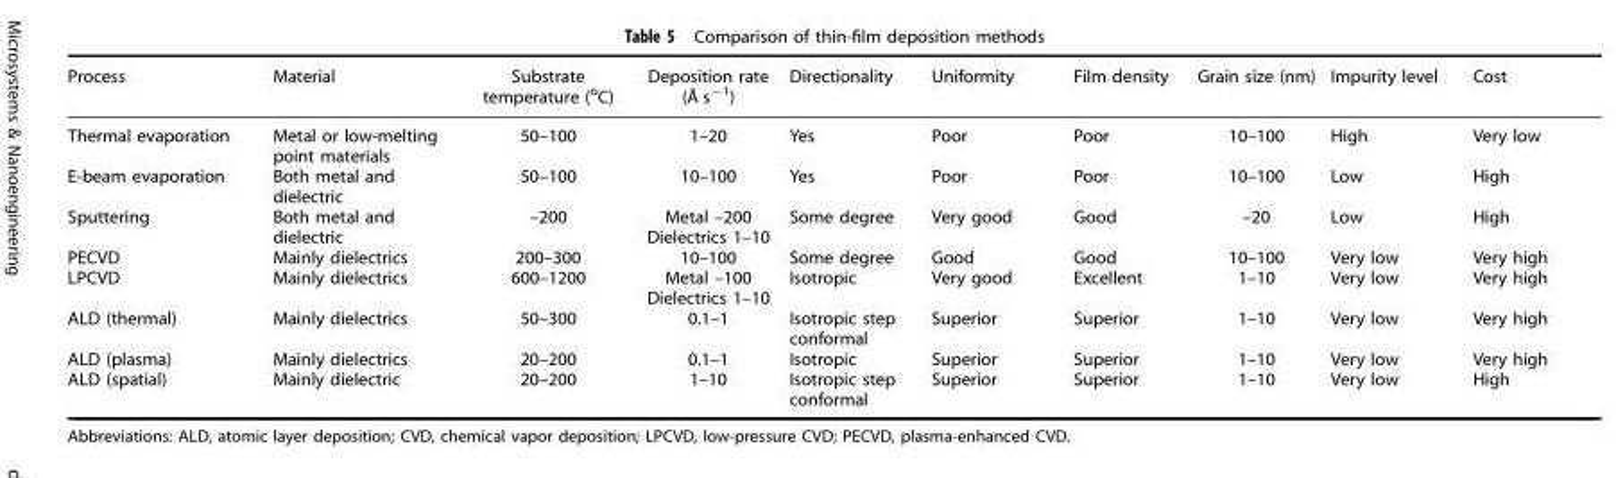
<table><thead><tr><td>Process</td><td>Material</td><td>Substrate temperature (<sup>o</sup>C)</td><td>Deposition rate (Å s <sup>− 1</sup>)</td><td>Directionality</td><td>Uniformity</td><td>Film density</td><td>Grain size (nm)</td><td>Impurity level</td><td>Cost</td></tr></thead><tbody><tr><td>Thermal evaporation</td><td>Metal or low-melting point materials</td><td>50–100</td><td>1–20</td><td>Yes</td><td>Poor</td><td>Poor</td><td>10–100</td><td>High</td><td>Very low</td></tr><tr><td>E-beam evaporation</td><td>Both metal and dielectric</td><td>50–100</td><td>10–100</td><td>Yes</td><td>Poor</td><td>Poor</td><td>10–100</td><td>Low</td><td>High</td></tr><tr><td>Sputtering</td><td>Both metal and dielectric</td><td>–200</td><td>Metal –200 Dielectrics 1–10</td><td>Some degree</td><td>Very good</td><td>Good</td><td>–20</td><td>Low</td><td>High</td></tr><tr><td>PECVD</td><td>Mainly dielectrics</td><td>200–300</td><td>10–100</td><td>Some degree</td><td>Good</td><td>Good</td><td>10–100</td><td>Very low</td><td>Very high</td></tr><tr><td>LPCVD</td><td>Mainly dielectrics</td><td>600–1200</td><td>Metal –100 Dielectrics 1–10</td><td>Isotropic</td><td>Very good</td><td>Excellent</td><td>1–10</td><td>Very low</td><td>Very high</td></tr><tr><td>ALD (thermal)</td><td>Mainly dielectrics</td><td>50–300</td><td>0.1–1</td><td>Isotropic step conformal</td><td>Superior</td><td>Superior</td><td>1–10</td><td>Very low</td><td>Very high</td></tr><tr><td>ALD (plasma)</td><td>Mainly dielectrics</td><td>20–200</td><td>0.1–1</td><td>Isotropic</td><td>Superior</td><td>Superior</td><td>1–10</td><td>Very low</td><td>Very high</td></tr><tr><td>ALD (spatial)</td><td>Mainly dielectric</td><td>20–200</td><td>1–10</td><td>Isotropic step conformal</td><td>Superior</td><td>Superior</td><td>1–10</td><td>Very low</td><td>High</td></tr></tbody></table>